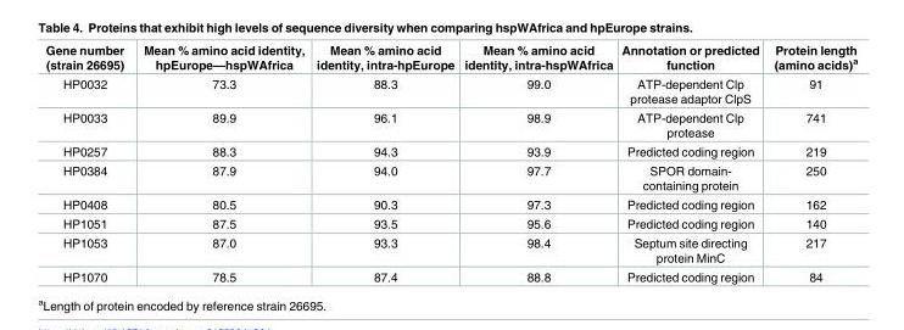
<table><thead><tr><td>Gene number (strain 26695)</td><td>Mean % amino acid identity, hpEurope—hspWAfrica</td><td>Mean % amino acid identity, intra-hpEurope</td><td>Mean % amino acid identity, intra-hspWAfrica</td><td>Annotation or predicted function</td><td>Protein length (amino acids)<sup>a</sup></td></tr></thead><tbody><tr><td>HP0032</td><td>73.3</td><td>88.3</td><td>99.0</td><td>ATP-dependent Clp protease adaptor ClpS</td><td>91</td></tr><tr><td>HP0033</td><td>89.9</td><td>96.1</td><td>98.9</td><td>ATP-dependent Clp protease</td><td>741</td></tr><tr><td>HP0257</td><td>88.3</td><td>94.3</td><td>93.9</td><td>Predicted coding region</td><td>219</td></tr><tr><td>HP0384</td><td>87.9</td><td>94.0</td><td>97.7</td><td>SPOR domain- containing protein</td><td>250</td></tr><tr><td>HP0408</td><td>80.5</td><td>90.3</td><td>97.3</td><td>Predicted coding region</td><td>162</td></tr><tr><td>HP1051</td><td>87.5</td><td>93.5</td><td>95.6</td><td>Predicted coding region</td><td>140</td></tr><tr><td>HP1053</td><td>87.0</td><td>93.3</td><td>98.4</td><td>Septum site directing protein MinC</td><td>217</td></tr><tr><td>HP1070</td><td>78.5</td><td>87.4</td><td>88.8</td><td>Predicted coding region</td><td>84</td></tr></tbody></table>